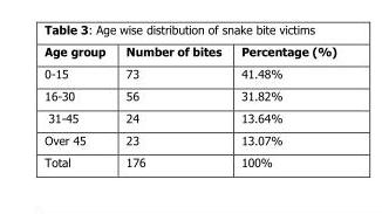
<table><thead><tr><td>Age group</td><td>Number of bites</td><td>Percentage (%)</td></tr></thead><tbody><tr><td>0-15</td><td>73</td><td>41.48%</td></tr><tr><td>16-30</td><td>56</td><td>31.82%</td></tr><tr><td>31-45</td><td>24</td><td>13.64%</td></tr><tr><td>Over 45</td><td>23</td><td>13.07%</td></tr><tr><td>Total</td><td>176</td><td>100%</td></tr></tbody></table>